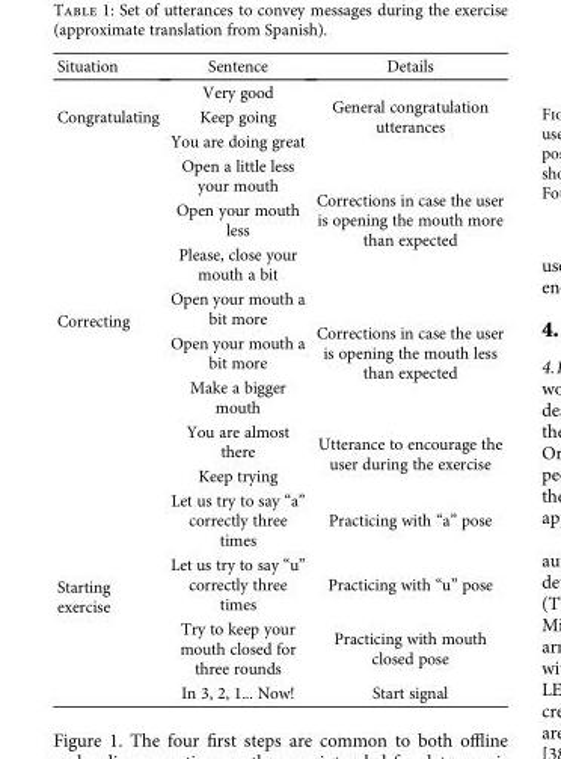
<table><thead><tr><td>Situation</td><td>Sentence</td><td>Details</td></tr></thead><tbody><tr><td rowspan="3">Congratulating</td><td>Very good</td><td rowspan="3">General congratulation utterances</td></tr><tr><td>Keep going</td></tr><tr><td>You are doing great</td></tr><tr><td rowspan="8">Correcting</td><td>Open a little less your mouth</td><td rowspan="3">Corrections in case the user is opening the mouth more than expected</td></tr><tr><td>Open your mouth less</td></tr><tr><td>Please, close your mouth a bit</td></tr><tr><td>Open your mouth a bit more</td><td rowspan="3">Corrections in case the user is opening the mouth less than expected</td></tr><tr><td>Open your mouth a bit more</td></tr><tr><td>Make a bigger mouth</td></tr><tr><td>You are almost there</td><td rowspan="2">Utterance to encourage the user during the exercise</td></tr><tr><td>Keep trying</td></tr><tr><td rowspan="4">Starting exercise</td><td>Let us try to say “a” correctly three times</td><td>Practicing with “a” pose</td></tr><tr><td>Let us try to say “u” correctly three times</td><td>Practicing with “u” pose</td></tr><tr><td>Try to keep your mouth closed for three rounds</td><td>Practicing with mouth closed pose</td></tr><tr><td>In 3, 2, 1... Now!</td><td>Start signal</td></tr></tbody></table>